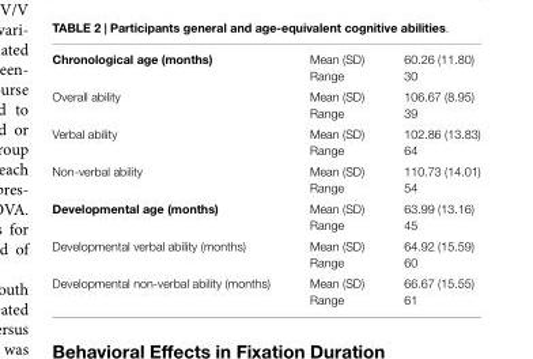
<table><tbody><tr><td rowspan="2">Chronological age (months)</td><td>Mean (SD)</td><td>60.26 (11.80)</td></tr><tr><td>Range</td><td>30</td></tr><tr><td rowspan="2">Overall ability</td><td>Mean (SD)</td><td>106.67 (8.95)</td></tr><tr><td>Range</td><td>39</td></tr><tr><td rowspan="2">Verbal ability</td><td>Mean (SD)</td><td>102.86 (13.83)</td></tr><tr><td>Range</td><td>64</td></tr><tr><td rowspan="2">Non-verbal ability</td><td>Mean (SD)</td><td>110.73 (14.01)</td></tr><tr><td>Range</td><td>54</td></tr><tr><td rowspan="2">Developmental age (months)</td><td>Mean (SD)</td><td>63.99 (13.16)</td></tr><tr><td>Range</td><td>45</td></tr><tr><td rowspan="2">Developmental verbal ability (months)</td><td>Mean (SD)</td><td>64.92 (15.59)</td></tr><tr><td>Range</td><td>60</td></tr><tr><td rowspan="2">Developmental non-verbal ability (months)</td><td>Mean (SD)</td><td>66.67 (15.55)</td></tr><tr><td>Range</td><td>61</td></tr></tbody></table>